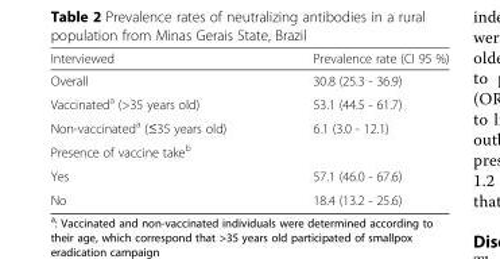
<table><thead><tr><td>Interviewed</td><td>Prevalence rate (CI 95 %)</td></tr></thead><tbody><tr><td>Overall</td><td>30.8 (25.3 - 36.9)</td></tr><tr><td>Vaccinated<sup>a</sup> (&gt;35 years old)</td><td>53.1 (44.5 - 61.7)</td></tr><tr><td>Non-vaccinated<sup>a</sup> (≤35 years old)</td><td>6.1 (3.0 - 12.1)</td></tr><tr><td colspan="2">Presence of vaccine take<sup>b</sup></td></tr><tr><td>Yes</td><td>57.1 (46.0 - 67.6)</td></tr><tr><td>No</td><td>18.4 (13.2 - 25.6)</td></tr></tbody></table>